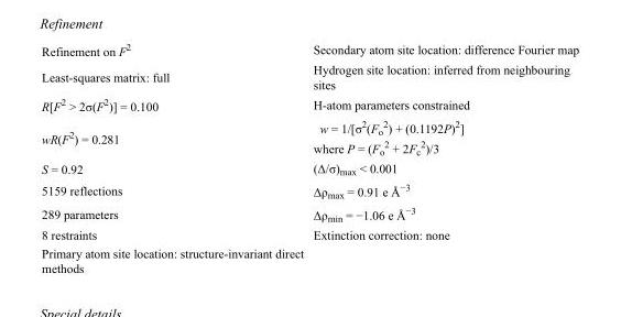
<table><tbody><tr><td>Refinement on F<sup>2</sup></td><td>Secondary atom site location: difference Fourier map</td></tr><tr><td>Least-squares matrix: full</td><td>Hydrogen site location: inferred from neighbouring sites</td></tr><tr><td>R[F<sup>2</sup> &gt; 2σ(F<sup>2</sup>)] = 0.100</td><td>H-atom parameters constrained</td></tr><tr><td>wR(F<sup>2</sup>) = 0.281</td><td>w = 1/[σ<sup>2</sup>(F<sub>o</sub> <sup>2</sup>) + (0.1192P)<sup>2</sup>] where P = (F<sub>o</sub> <sup>2</sup> + 2F<sub>c</sub> <sup>2</sup>)/3</td></tr><tr><td>S = 0.92</td><td>(Δ/σ)<sub>max</sub> &lt; 0.001</td></tr><tr><td>5159 reflections</td><td>Δρ<sub>max</sub> = 0.91 e Å<sup>−3</sup></td></tr><tr><td>289 parameters</td><td>Δρ<sub>min</sub> = −1.06 e Å<sup>−3</sup></td></tr><tr><td>8 restraints</td><td>Extinction correction: none</td></tr><tr><td>Primary atom site location: structure-invariant direct methods</td><td></td></tr></tbody></table>